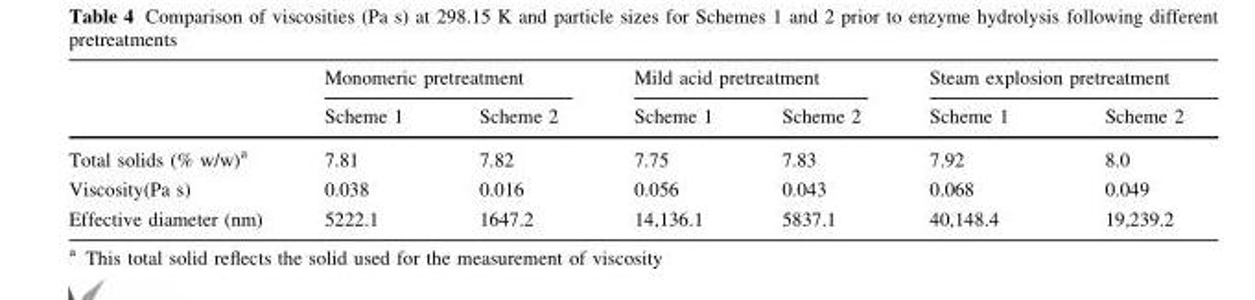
<table><thead><tr><td rowspan="2"></td><td colspan="2">Monomeric pretreatment</td><td colspan="2">Mild acid pretreatment</td><td colspan="2">Steam explosion pretreatment</td></tr><tr><td>Scheme 1</td><td>Scheme 2</td><td>Scheme 1</td><td>Scheme 2</td><td>Scheme 1</td><td>Scheme 2</td></tr></thead><tbody><tr><td>Total solids (% w/w)<sup>a</sup></td><td>7.81</td><td>7.82</td><td>7.75</td><td>7.83</td><td>7.92</td><td>8.0</td></tr><tr><td>Viscosity(Pa s)</td><td>0.038</td><td>0.016</td><td>0.056</td><td>0.043</td><td>0.068</td><td>0.049</td></tr><tr><td>Effective diameter (nm)</td><td>5222.1</td><td>1647.2</td><td>14,136.1</td><td>5837.1</td><td>40,148.4</td><td>19,239.2</td></tr></tbody></table>